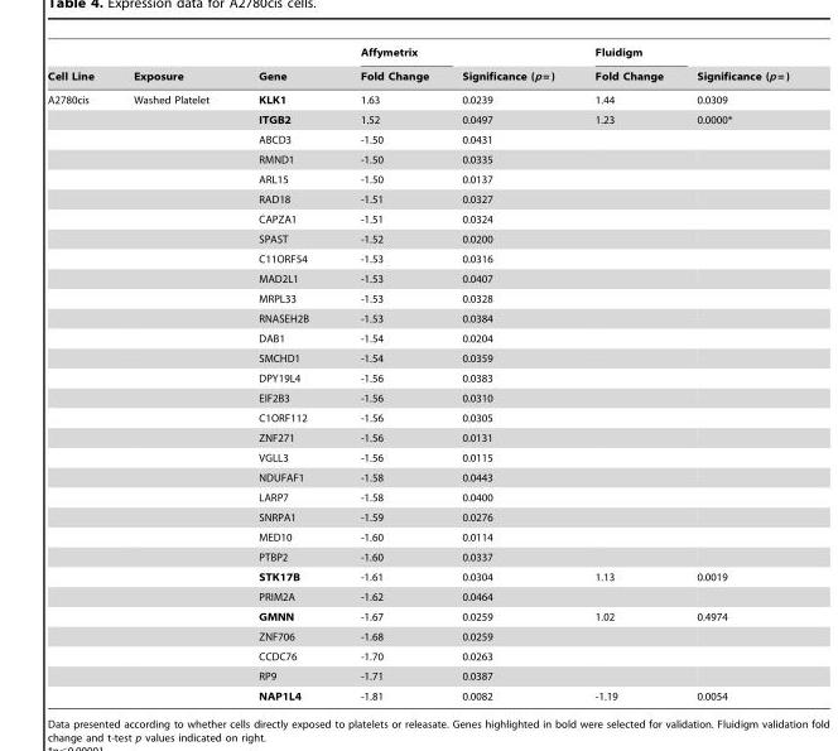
<table><thead><tr><td rowspan="2">Cell Line</td><td rowspan="2">Exposure</td><td rowspan="2">Gene</td><td rowspan="2">Affymetrix Fold Change</td><td rowspan="2">Significance (p = )</td><td rowspan="2">Fluidigm Fold Change</td><td rowspan="2">Significance (p = )</td></tr><tr></tr></thead><tbody><tr><td rowspan="31">A2780cis</td><td>Washed Platelet</td><td>KLK1</td><td>1.63</td><td>0.0239</td><td>1.44</td><td>0.0309</td></tr><tr><td></td><td>ITGB2</td><td>1.52</td><td>0.0497</td><td>1.23</td><td>0.0000*</td></tr><tr><td></td><td>ABCD3</td><td>-1.50</td><td>0.0431</td><td></td><td></td></tr><tr><td></td><td>RMND1</td><td>-1.50</td><td>0.0335</td><td></td><td></td></tr><tr><td></td><td>ARL15</td><td>-1.50</td><td>0.0137</td><td></td><td></td></tr><tr><td></td><td>RAD18</td><td>-1.51</td><td>0.0327</td><td></td><td></td></tr><tr><td></td><td>CAPZA1</td><td>-1.51</td><td>0.0324</td><td></td><td></td></tr><tr><td></td><td>SPAST</td><td>-1.52</td><td>0.0200</td><td></td><td></td></tr><tr><td></td><td>C11ORF54</td><td>-1.53</td><td>0.0316</td><td></td><td></td></tr><tr><td></td><td>MAD2L1</td><td>-1.53</td><td>0.0407</td><td></td><td></td></tr><tr><td></td><td>MRPL33</td><td>-1.53</td><td>0.0328</td><td></td><td></td></tr><tr><td></td><td>RNASEH2B</td><td>-1.53</td><td>0.0384</td><td></td><td></td></tr><tr><td></td><td>DAB1</td><td>-1.54</td><td>0.0204</td><td></td><td></td></tr><tr><td></td><td>SMCHD1</td><td>-1.54</td><td>0.0359</td><td></td><td></td></tr><tr><td></td><td>DPY19L4</td><td>-1.56</td><td>0.0383</td><td></td><td></td></tr><tr><td></td><td>EIF2B3</td><td>-1.56</td><td>0.0310</td><td></td><td></td></tr><tr><td></td><td>C1ORF112</td><td>-1.56</td><td>0.0305</td><td></td><td></td></tr><tr><td></td><td>ZNF271</td><td>-1.56</td><td>0.0131</td><td></td><td></td></tr><tr><td></td><td>VGLL3</td><td>-1.56</td><td>0.0115</td><td></td><td></td></tr><tr><td></td><td>NDUFAF1</td><td>-1.58</td><td>0.0443</td><td></td><td></td></tr><tr><td></td><td>LARP7</td><td>-1.58</td><td>0.0400</td><td></td><td></td></tr><tr><td></td><td>SNRPA1</td><td>-1.59</td><td>0.0276</td><td></td><td></td></tr><tr><td></td><td>MED10</td><td>-1.60</td><td>0.0114</td><td></td><td></td></tr><tr><td></td><td>PTBP2</td><td>-1.60</td><td>0.0337</td><td></td><td></td></tr><tr><td></td><td>STK17B</td><td>-1.61</td><td>0.0304</td><td>1.13</td><td>0.0019</td></tr><tr><td></td><td>PRIM2A</td><td>-1.62</td><td>0.0464</td><td></td><td></td></tr><tr><td></td><td>GMNN</td><td>-1.67</td><td>0.0259</td><td>1.02</td><td>0.4974</td></tr><tr><td></td><td>ZNF706</td><td>-1.68</td><td>0.0259</td><td></td><td></td></tr><tr><td></td><td>CCDC76</td><td>-1.70</td><td>0.0263</td><td></td><td></td></tr><tr><td></td><td>RP9</td><td>-1.71</td><td>0.0387</td><td></td><td></td></tr><tr><td></td><td>NAP1L4</td><td>-1.81</td><td>0.0082</td><td>-1.19</td><td>0.0054</td></tr></tbody></table>